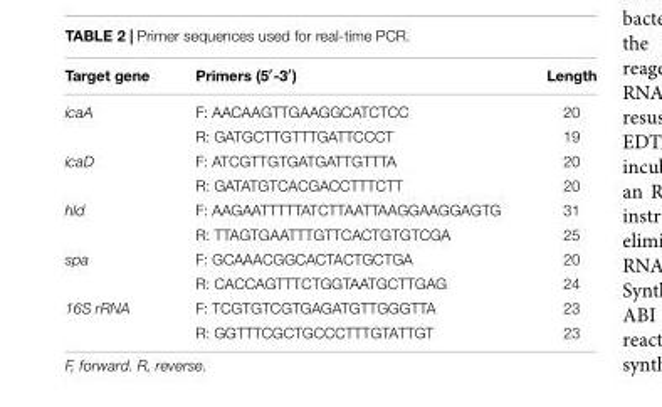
<table><thead><tr><td>Target gene</td><td>Primers (5′-3′)</td><td>Length</td></tr></thead><tbody><tr><td rowspan="2">icaA</td><td>F: AACAAGTTGAAGGCATCTCC</td><td>20</td></tr><tr><td>R: GATGCTTGTTTGATTCCCT</td><td>19</td></tr><tr><td rowspan="2">icaD</td><td>F: ATCGTTGTGATGATTGTTTA</td><td>20</td></tr><tr><td>R: GATATGTCACGACCTTTCTT</td><td>20</td></tr><tr><td rowspan="2">hld</td><td>F: AAGAATTTTTATCTTAATTAAGGAAGGAGTG</td><td>31</td></tr><tr><td>R: TTAGTGAATTTGTTCACTGTGTCGA</td><td>25</td></tr><tr><td rowspan="2">spa</td><td>F: GCAAACGGCACTACTGCTGA</td><td>20</td></tr><tr><td>R: CACCAGTTTCTGGTAATGCTTGAG</td><td>24</td></tr><tr><td rowspan="2">16S rRNA</td><td>F: TCGTGTCGTGAGATGTTGGGTTA</td><td>23</td></tr><tr><td>R: GGTTTCGCTGCCCTTTGTATTGT</td><td>23</td></tr></tbody></table>